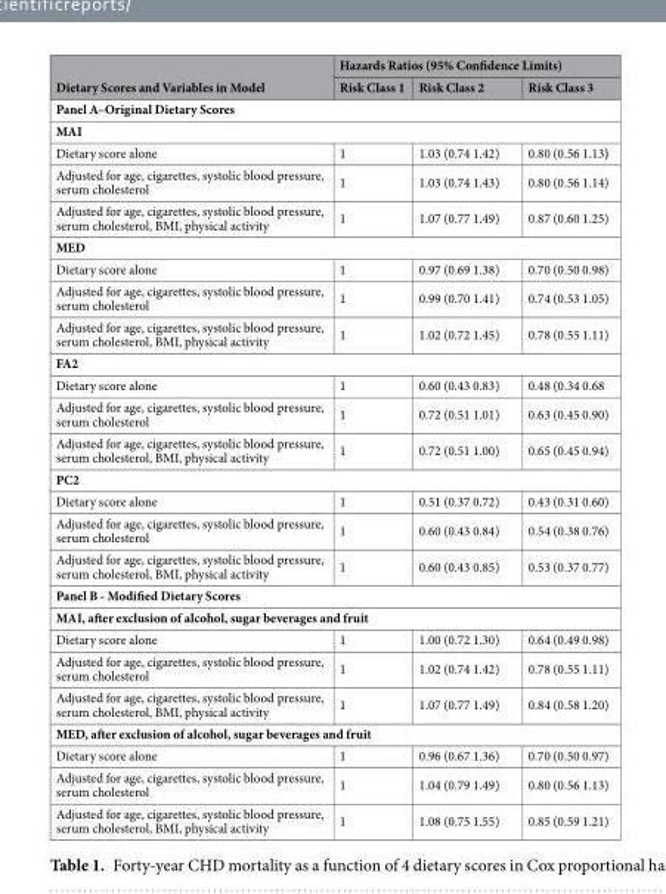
<table><thead><tr><td rowspan="2">Dietary Scores and Variables in Model</td><td colspan="3">Hazards Ratios (95% Confidence Limits)</td></tr><tr><td>Risk Class 1</td><td>Risk Class 2</td><td>Risk Class 3</td></tr></thead><tbody><tr><td colspan="4">Panel A–Original Dietary Scores</td></tr><tr><td colspan="4">MAI</td></tr><tr><td>Dietary score alone</td><td>1</td><td>1.03 (0.74 1.42)</td><td>0.80 (0.56 1.13)</td></tr><tr><td>Adjusted for age, cigarettes, systolic blood pressure, serum cholesterol</td><td>1</td><td>1.03 (0.74 1.43)</td><td>0.80 (0.56 1.14)</td></tr><tr><td>Adjusted for age, cigarettes, systolic blood pressure, serum cholesterol, BMI, physical activity</td><td>1</td><td>1.07 (0.77 1.49)</td><td>0.87 (0.60 1.25)</td></tr><tr><td colspan="4">MED</td></tr><tr><td>Dietary score alone</td><td>1</td><td>0.97 (0.69 1.38)</td><td>0.70 (0.50 0.98)</td></tr><tr><td>Adjusted for age, cigarettes, systolic blood pressure, serum cholesterol</td><td>1</td><td>0.99 (0.70 1.41)</td><td>0.74 (0.53 1.05)</td></tr><tr><td>Adjusted for age, cigarettes, systolic blood pressure, serum cholesterol, BMI, physical activity</td><td>1</td><td>1.02 (0.72 1.45)</td><td>0.78 (0.55 1.11)</td></tr><tr><td colspan="4">FA2</td></tr><tr><td>Dietary score alone</td><td>1</td><td>0.60 (0.43 0.83)</td><td>0.48 (0.34 0.68</td></tr><tr><td>Adjusted for age, cigarettes, systolic blood pressure, serum cholesterol</td><td>1</td><td>0.72 (0.51 1.01)</td><td>0.63 (0.45 0.90)</td></tr><tr><td>Adjusted for age, cigarettes, systolic blood pressure, serum cholesterol, BMI, physical activity</td><td>1</td><td>0.72 (0.51 1.00)</td><td>0.65 (0.45 0.94)</td></tr><tr><td colspan="4">PC2</td></tr><tr><td>Dietary score alone</td><td>1</td><td>0.51 (0.37 0.72)</td><td>0.43 (0.31 0.60)</td></tr><tr><td>Adjusted for age, cigarettes, systolic blood pressure, serum cholesterol</td><td>1</td><td>0.60 (0.43 0.84)</td><td>0.54 (0.38 0.76)</td></tr><tr><td>Adjusted for age, cigarettes, systolic blood pressure, serum cholesterol, BMI, physical activity</td><td>1</td><td>0.60 (0.43 0.85)</td><td>0.53 (0.37 0.77)</td></tr><tr><td colspan="4">Panel B - Modified Dietary Scores</td></tr><tr><td colspan="4">MAI, after exclusion of alcohol, sugar beverages and fruit</td></tr><tr><td>Dietary score alone</td><td>1</td><td>1.00 (0.72 1.30)</td><td>0.64 (0.49 0.98)</td></tr><tr><td>Adjusted for age, cigarettes, systolic blood pressure, serum cholesterol</td><td>1</td><td>1.02 (0.74 1.42)</td><td>0.78 (0.55 1.11)</td></tr><tr><td>Adjusted for age, cigarettes, systolic blood pressure, serum cholesterol, BMI, physical activity</td><td>1</td><td>1.07 (0.77 1.49)</td><td>0.84 (0.58 1.20)</td></tr><tr><td colspan="4">MED, after exclusion of alcohol, sugar beverages and fruit</td></tr><tr><td>Dietary score alone</td><td>1</td><td>0.96 (0.67 1.36)</td><td>0.70 (0.50 0.97)</td></tr><tr><td>Adjusted for age, cigarettes, systolic blood pressure, serum cholesterol</td><td>1</td><td>1.04 (0.79 1.49)</td><td>0.80 (0.56 1.13)</td></tr><tr><td>Adjusted for age, cigarettes, systolic blood pressure, serum cholesterol, BMI, physical activity</td><td>1</td><td>1.08 (0.75 1.55)</td><td>0.85 (0.59 1.21)</td></tr></tbody></table>